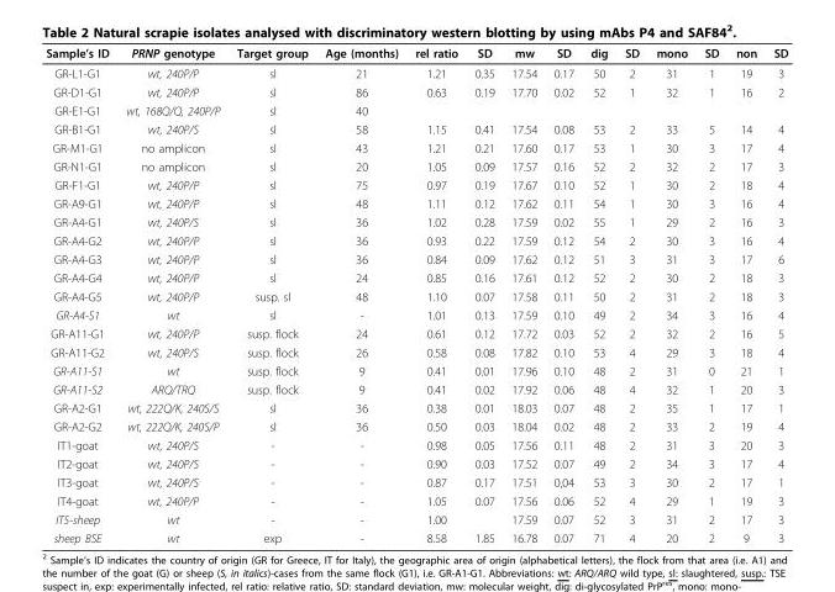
<table><thead><tr><td>Sample’s ID</td><td>PRNP genotype</td><td>Target group</td><td>Age (months)</td><td>rel ratio</td><td>SD</td><td>mw</td><td>SD</td><td>dig</td><td>SD</td><td>mono</td><td>SD</td><td>non</td><td>SD</td></tr></thead><tbody><tr><td>GR-L1-G1</td><td>wt, 240P/P</td><td>sl</td><td>21</td><td>1.21</td><td>0.35</td><td>17.54</td><td>0.17</td><td>50</td><td>2</td><td>31</td><td>1</td><td>19</td><td>3</td></tr><tr><td>GR-D1-G1</td><td>wt, 240P/P</td><td>sl</td><td>86</td><td>0.63</td><td>0.19</td><td>17.70</td><td>0.02</td><td>52</td><td>1</td><td>32</td><td>1</td><td>16</td><td>2</td></tr><tr><td>GR-E1-G1</td><td>wt, 168Q/Q, 240P/P</td><td>sl</td><td>40</td><td></td><td></td><td></td><td></td><td></td><td></td><td></td><td></td><td></td><td></td></tr><tr><td>GR-B1-G1</td><td>wt, 240P/S</td><td>sl</td><td>58</td><td>1.15</td><td>0.41</td><td>17.54</td><td>0.08</td><td>53</td><td>2</td><td>33</td><td>5</td><td>14</td><td>4</td></tr><tr><td>GR-M1-G1</td><td>no amplicon</td><td>sl</td><td>43</td><td>1.21</td><td>0.21</td><td>17.60</td><td>0.17</td><td>53</td><td>1</td><td>30</td><td>3</td><td>17</td><td>4</td></tr><tr><td>GR-N1-G1</td><td>no amplicon</td><td>sl</td><td>20</td><td>1.05</td><td>0.09</td><td>17.57</td><td>0.16</td><td>52</td><td>2</td><td>32</td><td>2</td><td>17</td><td>3</td></tr><tr><td>GR-F1-G1</td><td>wt, 240P/P</td><td>sl</td><td>75</td><td>0.97</td><td>0.19</td><td>17.67</td><td>0.10</td><td>52</td><td>1</td><td>30</td><td>2</td><td>18</td><td>4</td></tr><tr><td>GR-A9-G1</td><td>wt, 240P/P</td><td>sl</td><td>48</td><td>1.11</td><td>0.12</td><td>17.62</td><td>0.11</td><td>54</td><td>1</td><td>30</td><td>3</td><td>16</td><td>4</td></tr><tr><td>GR-A4-G1</td><td>wt, 240P/S</td><td>sl</td><td>36</td><td>1.02</td><td>0.28</td><td>17.59</td><td>0.02</td><td>55</td><td>1</td><td>29</td><td>2</td><td>16</td><td>3</td></tr><tr><td>GR-A4-G2</td><td>wt, 240P/P</td><td>sl</td><td>36</td><td>0.93</td><td>0.22</td><td>17.59</td><td>0.12</td><td>54</td><td>2</td><td>30</td><td>3</td><td>16</td><td>4</td></tr><tr><td>GR-A4-G3</td><td>wt, 240P/P</td><td>sl</td><td>36</td><td>0.84</td><td>0.09</td><td>17.62</td><td>0.12</td><td>51</td><td>3</td><td>31</td><td>3</td><td>17</td><td>6</td></tr><tr><td>GR-A4-G4</td><td>wt, 240P/P</td><td>sl</td><td>24</td><td>0.85</td><td>0.16</td><td>17.61</td><td>0.12</td><td>52</td><td>2</td><td>30</td><td>2</td><td>18</td><td>3</td></tr><tr><td>GR-A4-G5</td><td>wt, 240P/P</td><td>susp. sl</td><td>48</td><td>1.10</td><td>0.07</td><td>17.58</td><td>0.11</td><td>50</td><td>2</td><td>31</td><td>2</td><td>18</td><td>3</td></tr><tr><td>GR-A4-S1</td><td>wt</td><td>sl</td><td>-</td><td>1.01</td><td>0.13</td><td>17.59</td><td>0.10</td><td>49</td><td>2</td><td>34</td><td>3</td><td>16</td><td>4</td></tr><tr><td>GR-A11-G1</td><td>wt, 240P/P</td><td>susp. flock</td><td>24</td><td>0.61</td><td>0.12</td><td>17.72</td><td>0.03</td><td>52</td><td>2</td><td>32</td><td>2</td><td>16</td><td>5</td></tr><tr><td>GR-A11-G2</td><td>wt, 240P/S</td><td>susp. flock</td><td>26</td><td>0.58</td><td>0.08</td><td>17.82</td><td>0.10</td><td>53</td><td>4</td><td>29</td><td>3</td><td>18</td><td>4</td></tr><tr><td>GR-A11-S1</td><td>wt</td><td>susp. flock</td><td>9</td><td>0.41</td><td>0.01</td><td>17.96</td><td>0.10</td><td>48</td><td>2</td><td>31</td><td>0</td><td>21</td><td>1</td></tr><tr><td>GR-A11-S2</td><td>ARQ/TRQ</td><td>susp. flock</td><td>9</td><td>0.41</td><td>0.02</td><td>17.92</td><td>0.06</td><td>48</td><td>4</td><td>32</td><td>1</td><td>20</td><td>3</td></tr><tr><td>GR-A2-G1</td><td>wt, 222Q/K, 240S/S</td><td>sl</td><td>36</td><td>0.38</td><td>0.01</td><td>18.03</td><td>0.07</td><td>48</td><td>2</td><td>35</td><td>1</td><td>17</td><td>1</td></tr><tr><td>GR-A2-G2</td><td>wt, 222Q/K, 240S/P</td><td>sl</td><td>36</td><td>0.50</td><td>0.03</td><td>18.04</td><td>0.02</td><td>48</td><td>2</td><td>33</td><td>2</td><td>19</td><td>4</td></tr><tr><td>IT1-goat</td><td>wt, 240P/S</td><td>-</td><td>-</td><td>0.98</td><td>0.05</td><td>17.56</td><td>0.11</td><td>48</td><td>2</td><td>31</td><td>3</td><td>20</td><td>3</td></tr><tr><td>IT2-goat</td><td>wt, 240P/S</td><td>-</td><td>-</td><td>0.90</td><td>0.03</td><td>17.52</td><td>0.07</td><td>49</td><td>2</td><td>34</td><td>3</td><td>17</td><td>4</td></tr><tr><td>IT3-goat</td><td>wt, 240P/S</td><td>-</td><td>-</td><td>0.87</td><td>0.17</td><td>17.51</td><td>0,04</td><td>53</td><td>3</td><td>30</td><td>2</td><td>17</td><td>1</td></tr><tr><td>IT4-goat</td><td>wt, 240P/P</td><td>-</td><td>-</td><td>1.05</td><td>0.07</td><td>17.56</td><td>0.06</td><td>52</td><td>4</td><td>29</td><td>1</td><td>19</td><td>3</td></tr><tr><td>IT5-sheep</td><td>wt</td><td>-</td><td>-</td><td>1.00</td><td></td><td>17.59</td><td>0.07</td><td>52</td><td>3</td><td>31</td><td>2</td><td>17</td><td>3</td></tr><tr><td>sheep BSE</td><td>wt</td><td>exp</td><td>-</td><td>8.58</td><td>1.85</td><td>16.78</td><td>0.07</td><td>71</td><td>4</td><td>20</td><td>2</td><td>9</td><td>3</td></tr></tbody></table>